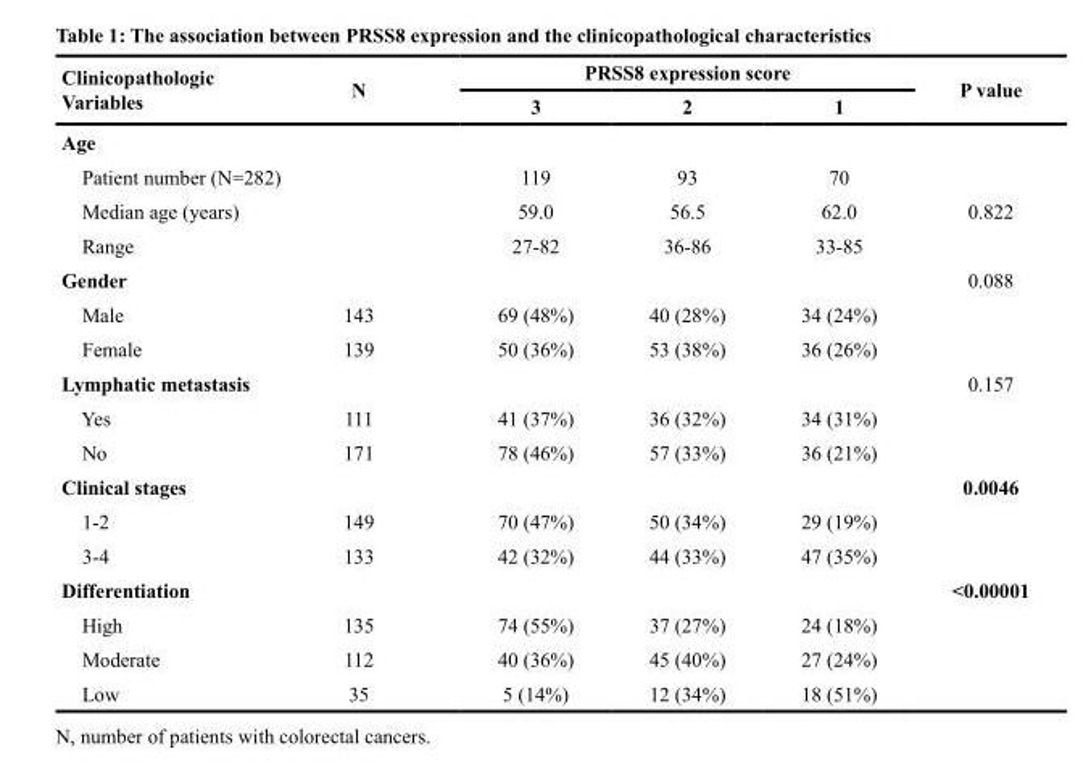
<table><thead><tr><td rowspan="2">Clinicopathologic Variables</td><td rowspan="2">N</td><td colspan="3">PRSS8 expression score</td><td rowspan="2">P value</td></tr><tr><td>3</td><td>2</td><td>1</td></tr></thead><tbody><tr><td colspan="6">Age</td></tr><tr><td>Patient number (N=282)</td><td></td><td>119</td><td>93</td><td>70</td><td></td></tr><tr><td>Median age (years)</td><td></td><td>59.0</td><td>56.5</td><td>62.0</td><td>0.822</td></tr><tr><td>Range</td><td></td><td>27-82</td><td>36-86</td><td>33-85</td><td></td></tr><tr><td>Gender</td><td></td><td></td><td></td><td></td><td>0.088</td></tr><tr><td>Male</td><td>143</td><td>69 (48%)</td><td>40 (28%)</td><td>34 (24%)</td><td></td></tr><tr><td>Female</td><td>139</td><td>50 (36%)</td><td>53 (38%)</td><td>36 (26%)</td><td></td></tr><tr><td>Lymphatic metastasis</td><td></td><td></td><td></td><td></td><td>0.157</td></tr><tr><td>Yes</td><td>111</td><td>41 (37%)</td><td>36 (32%)</td><td>34 (31%)</td><td></td></tr><tr><td>No</td><td>171</td><td>78 (46%)</td><td>57 (33%)</td><td>36 (21%)</td><td></td></tr><tr><td>Clinical stages</td><td></td><td></td><td></td><td></td><td>0.0046</td></tr><tr><td>1-2</td><td>149</td><td>70 (47%)</td><td>50 (34%)</td><td>29 (19%)</td><td></td></tr><tr><td>3-4</td><td>133</td><td>42 (32%)</td><td>44 (33%)</td><td>47 (35%)</td><td></td></tr><tr><td>Differentiation</td><td></td><td></td><td></td><td></td><td>&lt;0.00001</td></tr><tr><td>High</td><td>135</td><td>74 (55%)</td><td>37 (27%)</td><td>24 (18%)</td><td></td></tr><tr><td>Moderate</td><td>112</td><td>40 (36%)</td><td>45 (40%)</td><td>27 (24%)</td><td></td></tr><tr><td>Low</td><td>35</td><td>5 (14%)</td><td>12 (34%)</td><td>18 (51%)</td><td></td></tr></tbody></table>